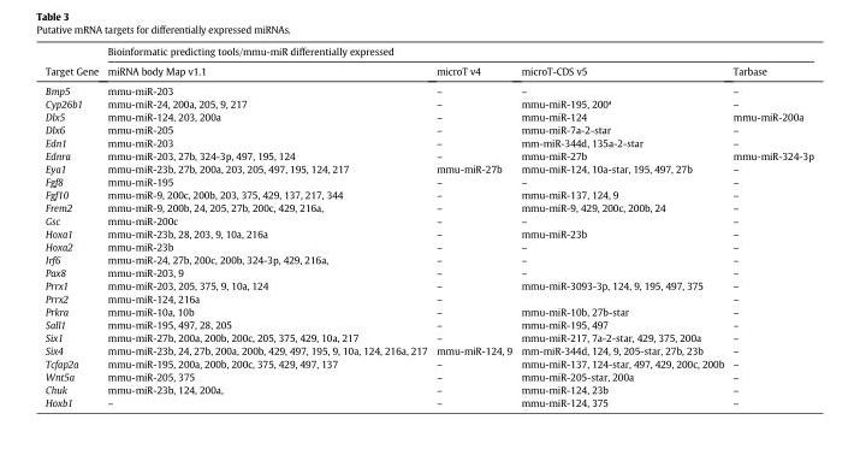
<table><thead><tr><td rowspan="2">Target Gene</td><td colspan="4">Bioinformatic predicting tools/mmu-miR differentially expressed</td></tr><tr><td>miRNA body Map v1.1</td><td>microT v4</td><td>microT-CDS v5</td><td>Tarbase</td></tr></thead><tbody><tr><td>Bmp5</td><td>mmu-miR-203</td><td>–</td><td>–</td><td>–</td></tr><tr><td>Cyp26b1</td><td>mmu-miR-24, 200a, 205, 9, 217</td><td>–</td><td>mmu-miR-195, 200ª</td><td>–</td></tr><tr><td>Dlx5</td><td>mmu-miR-124, 203, 200a</td><td>–</td><td>mmu-miR-124</td><td>mmu-miR-200a</td></tr><tr><td>Dlx6</td><td>mmu-miR-205</td><td>–</td><td>mmu-miR-7a-2-star</td><td>–</td></tr><tr><td>Edn1</td><td>mmu-miR-203</td><td>–</td><td>mm-miR-344d, 135a-2-star</td><td>–</td></tr><tr><td>Ednra</td><td>mmu-miR-203, 27b, 324-3p, 497, 195, 124</td><td>–</td><td>mmu-miR-27b</td><td>mmu-miR-324-3p</td></tr><tr><td>Eya1</td><td>mmu-miR-23b, 27b, 200a, 203, 205, 497, 195, 124, 217</td><td>mmu-miR-27b</td><td>mmu-miR-124, 10a-star, 195, 497, 27b</td><td>–</td></tr><tr><td>Fgf8</td><td>mmu-miR-195</td><td>–</td><td>–</td><td>–</td></tr><tr><td>Fgf10</td><td>mmu-miR-9, 200c, 200b, 203, 375, 429, 137, 217, 344</td><td>–</td><td>mmu-miR-137, 124, 9</td><td>–</td></tr><tr><td>Frem2</td><td>mmu-miR-9, 200b, 24, 205, 27b, 200c, 429, 216a,</td><td>–</td><td>mmu-miR-9, 429, 200c, 200b, 24</td><td>–</td></tr><tr><td>Gsc</td><td>mmu-miR-200c</td><td>–</td><td>–</td><td>–</td></tr><tr><td>Hoxa1</td><td>mmu-miR-23b, 28, 203, 9, 10a, 216a</td><td>–</td><td>mmu-miR-23b</td><td>–</td></tr><tr><td>Hoxa2</td><td>mmu-miR-23b</td><td>–</td><td>–</td><td>–</td></tr><tr><td>Irf6</td><td>mmu-miR-24, 27b, 200c, 200b, 324-3p, 429, 216a,</td><td>–</td><td>–</td><td>–</td></tr><tr><td>Pax8</td><td>mmu-miR-203, 9</td><td>–</td><td>–</td><td>–</td></tr><tr><td>Prrx1</td><td>mmu-miR-203, 205, 375, 9, 10a, 124</td><td>–</td><td>mmu-miR-3093-3p, 124, 9, 195, 497, 375</td><td>–</td></tr><tr><td>Prrx2</td><td>mmu-miR-124, 216a</td><td>–</td><td></td><td>–</td></tr><tr><td>Prkra</td><td>mmu-miR-10a, 10b</td><td>–</td><td>mmu-miR-10b, 27b-star</td><td>–</td></tr><tr><td>Sall1</td><td>mmu-miR-195, 497, 28, 205</td><td>–</td><td>mmu-miR-195, 497</td><td>–</td></tr><tr><td>Six1</td><td>mmu-miR-27b, 200a, 200b, 200c, 205, 375, 429, 10a, 217</td><td>–</td><td>mmu-miR-217, 7a-2-star, 429, 375, 200a</td><td>–</td></tr><tr><td>Six4</td><td>mmu-miR-23b, 24, 27b, 200a, 200b, 429, 497, 195, 9, 10a, 124, 216a, 217</td><td>mmu-miR-124, 9</td><td>mm-miR-344d, 124, 9, 205-star, 27b, 23b</td><td>–</td></tr><tr><td>Tcfap2a</td><td>mmu-miR-195, 200a, 200b, 200c, 375, 429, 497, 137</td><td>–</td><td>mmu-miR-137, 124-star, 497, 429, 200c, 200b</td><td>–</td></tr><tr><td>Wnt5a</td><td>mmu-miR-205, 375</td><td>–</td><td>mmu-miR-205-star, 200a</td><td>–</td></tr><tr><td>Chuk</td><td>mmu-miR-23b, 124, 200a,</td><td>–</td><td>mmu-miR-124, 23b</td><td>–</td></tr><tr><td>Hoxb1</td><td>–</td><td>–</td><td>mmu-miR-124, 375</td><td>–</td></tr></tbody></table>